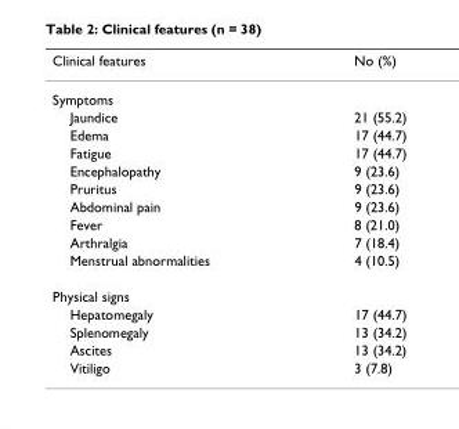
<table><thead><tr><td>Clinical features</td><td>No (%)</td></tr></thead><tbody><tr><td colspan="2">Symptoms</td></tr><tr><td>Jaundice</td><td>21 (55.2)</td></tr><tr><td>Edema</td><td>17 (44.7)</td></tr><tr><td>Fatigue</td><td>17 (44.7)</td></tr><tr><td>Encephalopathy</td><td>9 (23.6)</td></tr><tr><td>Pruritus</td><td>9 (23.6)</td></tr><tr><td>Abdominal pain</td><td>9 (23.6)</td></tr><tr><td>Fever</td><td>8 (21.0)</td></tr><tr><td>Arthralgia</td><td>7 (18.4)</td></tr><tr><td>Menstrual abnormalities</td><td>4 (10.5)</td></tr><tr><td colspan="2">Physical signs</td></tr><tr><td>Hepatomegaly</td><td>17 (44.7)</td></tr><tr><td>Splenomegaly</td><td>13 (34.2)</td></tr><tr><td>Ascites</td><td>13 (34.2)</td></tr><tr><td>Vitiligo</td><td>3 (7.8)</td></tr></tbody></table>